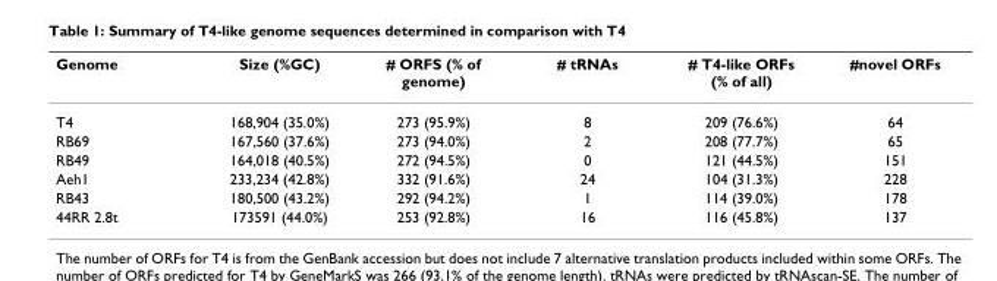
<table><thead><tr><td>Genome</td><td>Size (%GC)</td><td># ORFS (% of genome)</td><td># tRNAs</td><td># T4-like ORFs (% of all)</td><td>#novel ORFs</td></tr></thead><tbody><tr><td>T4</td><td>168,904 (35.0%)</td><td>273 (95.9%)</td><td>8</td><td>209 (76.6%)</td><td>64</td></tr><tr><td>RB69</td><td>167,560 (37.6%)</td><td>273 (94.0%)</td><td>2</td><td>208 (77.7%)</td><td>65</td></tr><tr><td>RB49</td><td>164,018 (40.5%)</td><td>272 (94.5%)</td><td>0</td><td>121 (44.5%)</td><td>151</td></tr><tr><td>Aeh1</td><td>233,234 (42.8%)</td><td>332 (91.6%)</td><td>24</td><td>104 (31.3%)</td><td>228</td></tr><tr><td>RB43</td><td>180,500 (43.2%)</td><td>292 (94.2%)</td><td>1</td><td>114 (39.0%)</td><td>178</td></tr><tr><td>44RR 2.8t</td><td>173591 (44.0%)</td><td>253 (92.8%)</td><td>16</td><td>116 (45.8%)</td><td>137</td></tr></tbody></table>